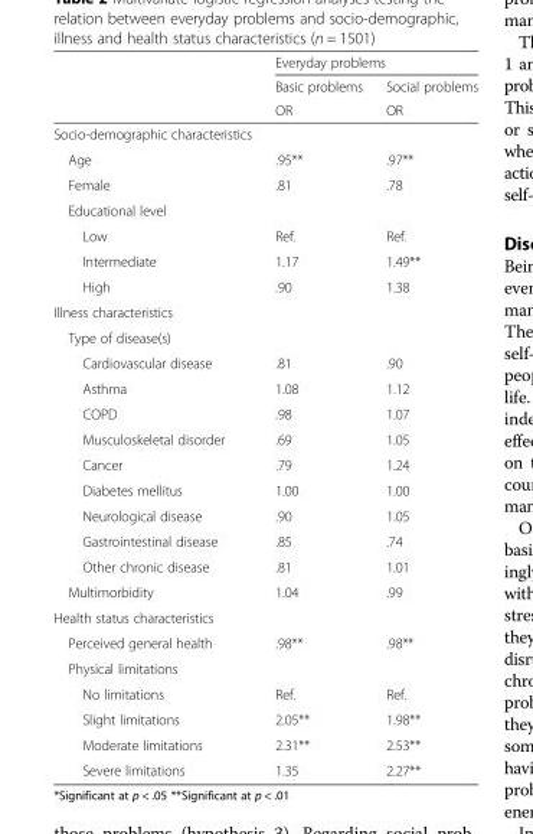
<table><thead><tr><td rowspan="3"></td><td colspan="2">Everyday problems</td></tr><tr><td rowspan="2">Basic problems OR</td><td rowspan="2">Social problems OR</td></tr><tr></tr></thead><tbody><tr><td colspan="3">Socio-demographic characteristics</td></tr><tr><td>Age</td><td>.95**</td><td>.97**</td></tr><tr><td>Female</td><td>.81</td><td>.78</td></tr><tr><td colspan="3">Educational level</td></tr><tr><td>Low</td><td>Ref.</td><td>Ref.</td></tr><tr><td>Intermediate</td><td>1.17</td><td>1.49**</td></tr><tr><td>High</td><td>.90</td><td>1.38</td></tr><tr><td colspan="3">Illness characteristics</td></tr><tr><td colspan="3">Type of disease(s)</td></tr><tr><td>Cardiovascular disease</td><td>.81</td><td>.90</td></tr><tr><td>Asthma</td><td>1.08</td><td>1.12</td></tr><tr><td>COPD</td><td>.98</td><td>1.07</td></tr><tr><td>Musculoskeletal disorder</td><td>.69</td><td>1.05</td></tr><tr><td>Cancer</td><td>.79</td><td>1.24</td></tr><tr><td>Diabetes mellitus</td><td>1.00</td><td>1.00</td></tr><tr><td>Neurological disease</td><td>.90</td><td>1.05</td></tr><tr><td>Gastrointestinal disease</td><td>.85</td><td>.74</td></tr><tr><td>Other chronic disease</td><td>.81</td><td>1.01</td></tr><tr><td>Multimorbidity</td><td>1.04</td><td>.99</td></tr><tr><td colspan="3">Health status characteristics</td></tr><tr><td>Perceived general health</td><td>.98**</td><td>.98**</td></tr><tr><td colspan="3">Physical limitations</td></tr><tr><td>No limitations</td><td>Ref.</td><td>Ref.</td></tr><tr><td>Slight limitations</td><td>2.05**</td><td>1.98**</td></tr><tr><td>Moderate limitations</td><td>2.31**</td><td>2.53**</td></tr><tr><td>Severe limitations</td><td>1.35</td><td>2.27**</td></tr></tbody></table>